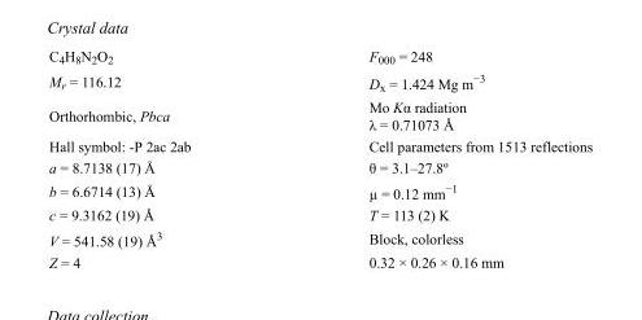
<table><tbody><tr><td>C<sub>4</sub>H<sub>8</sub>N<sub>2</sub>O<sub>2</sub></td><td>F<sub>000</sub> = 248</td></tr><tr><td>M<sub>r</sub> = 116.12</td><td>D<sub>x</sub> = 1.424 Mg m<sup>−3</sup></td></tr><tr><td>Orthorhombic, Pbca</td><td>Mo Kα radiation λ = 0.71073 Å</td></tr><tr><td>Hall symbol: -P 2ac 2ab</td><td>Cell parameters from 1513 reflections</td></tr><tr><td>a = 8.7138 (17) Å</td><td>θ = 3.1–27.8º</td></tr><tr><td>b = 6.6714 (13) Å</td><td>µ = 0.12 mm<sup>−1</sup></td></tr><tr><td>c = 9.3162 (19) Å</td><td>T = 113 (2) K</td></tr><tr><td>V = 541.58 (19) Å<sup>3</sup></td><td>Block, colorless</td></tr><tr><td>Z = 4</td><td>0.32 × 0.26 × 0.16 mm</td></tr></tbody></table>